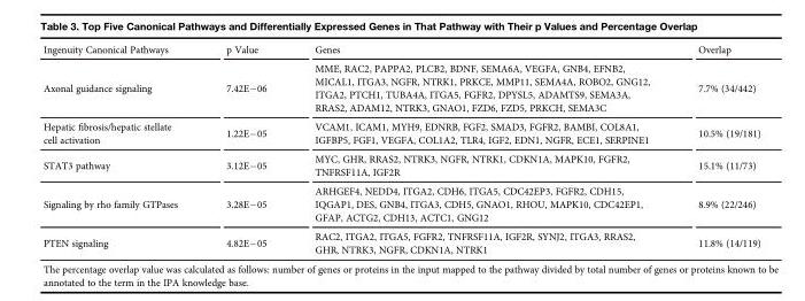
<table><thead><tr><td>Ingenuity Canonical Pathways</td><td>p Value</td><td>Genes</td><td>Overlap</td></tr></thead><tbody><tr><td>Axonal guidance signaling</td><td>7.42E−06</td><td>MME, RAC2, PAPPA2, PLCB2, BDNF, SEMA6A, VEGFA, GNB4, EFNB2, MICAL1, ITGA3, NGFR, NTRK1, PRKCE, MMP11, SEMA4A, ROBO2, GNG12, ITGA2, PTCH1, TUBA4A, ITGA5, FGFR2, DPYSL5, ADAMTS9, SEMA3A, RRAS2, ADAM12, NTRK3, GNAO1, FZD6, FZD5, PRKCH, SEMA3C</td><td>7.7% (34/442)</td></tr><tr><td>Hepatic fibrosis/hepatic stellate cell activation</td><td>1.22E−05</td><td>VCAM1, ICAM1, MYH9, EDNRB, FGF2, SMAD3, FGFR2, BAMBI, COL8A1, IGFBP5, FGF1, VEGFA, COL1A2, TLR4, IGF2, EDN1, NGFR, ECE1, SERPINE1</td><td>10.5% (19/181)</td></tr><tr><td>STAT3 pathway</td><td>3.12E−05</td><td>MYC, GHR, RRAS2, NTRK3, NGFR, NTRK1, CDKN1A, MAPK10, FGFR2, TNFRSF11A, IGF2R</td><td>15.1% (11/73)</td></tr><tr><td>Signaling by rho family GTPases</td><td>3.28E−05</td><td>ARHGEF4, NEDD4, ITGA2, CDH6, ITGA5, CDC42EP3, FGFR2, CDH15, IQGAP1, DES, GNB4, ITGA3, CDH5, GNAO1, RHOU, MAPK10, CDC42EP1, GFAP, ACTG2, CDH13, ACTC1, GNG12</td><td>8.9% (22/246)</td></tr><tr><td>PTEN signaling</td><td>4.82E−05</td><td>RAC2, ITGA2, ITGA5, FGFR2, TNFRSF11A, IGF2R, SYNJ2, ITGA3, RRAS2, GHR, NTRK3, NGFR, CDKN1A, NTRK1</td><td>11.8% (14/119)</td></tr></tbody></table>